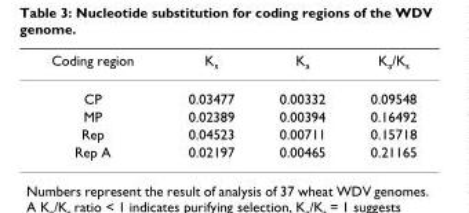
<table><thead><tr><td>Coding region</td><td>K<sub>s</sub></td><td>K<sub>a</sub></td><td>K<sub>a</sub>/K<sub>s</sub></td></tr></thead><tbody><tr><td>CP</td><td>0.03477</td><td>0.00332</td><td>0.09548</td></tr><tr><td>MP</td><td>0.02389</td><td>0.00394</td><td>0.16492</td></tr><tr><td>Rep</td><td>0.04523</td><td>0.00711</td><td>0.15718</td></tr><tr><td>Rep A</td><td>0.02197</td><td>0.00465</td><td>0.21165</td></tr></tbody></table>